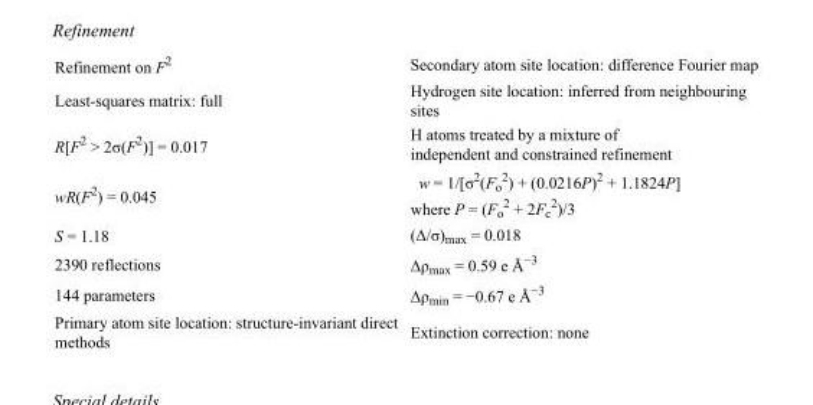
<table><tbody><tr><td>Refinement on F<sup>2</sup></td><td>Secondary atom site location: difference Fourier map</td></tr><tr><td>Least-squares matrix: full</td><td>Hydrogen site location: inferred from neighbouring sites</td></tr><tr><td>R[F<sup>2</sup> &gt; 2σ(F<sup>2</sup>)] = 0.017</td><td>H atoms treated by a mixture of independent and constrained refinement</td></tr><tr><td>wR(F<sup>2</sup>) = 0.045</td><td>w = 1/[σ<sup>2</sup>(F<sub>o</sub> <sup>2</sup>) + (0.0216P)<sup>2</sup> + 1.1824P] where P = (F<sub>o</sub> <sup>2</sup> + 2F<sub>c</sub> <sup>2</sup>)/3</td></tr><tr><td>S = 1.18</td><td>(Δ/σ)<sub>max</sub> = 0.018</td></tr><tr><td>2390 reflections</td><td>Δρ<sub>max</sub> = 0.59 e Å<sup>−3</sup></td></tr><tr><td>144 parameters</td><td>Δρ<sub>min</sub> = −0.67 e Å<sup>−3</sup></td></tr><tr><td>Primary atom site location: structure-invariant direct methods</td><td>Extinction correction: none</td></tr></tbody></table>